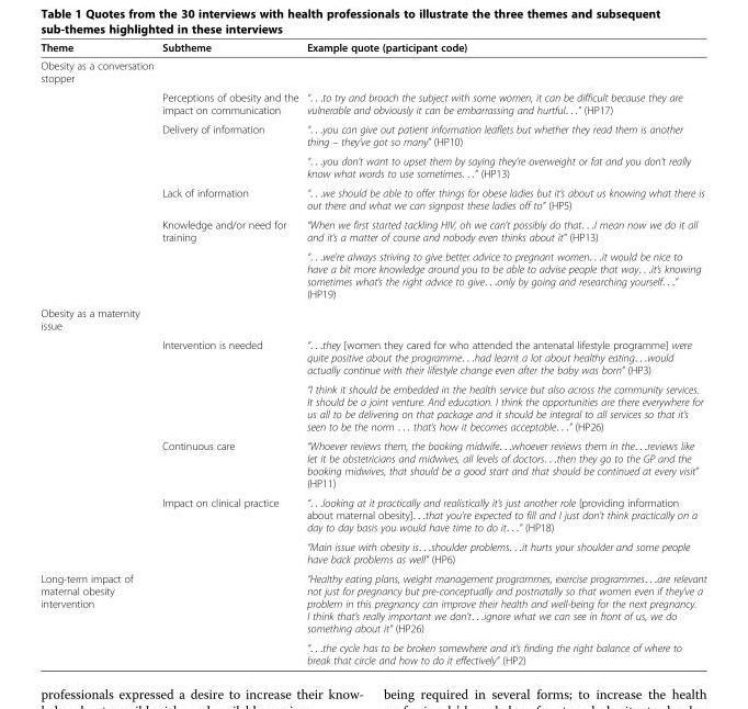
<table><thead><tr><td>Theme</td><td>Subtheme</td><td>Example quote (participant code)</td></tr></thead><tbody><tr><td colspan="3">Obesity as a conversation stopper</td></tr><tr><td></td><td>Perceptions of obesity and the impact on communication</td><td>“. . .to try and broach the subject with some women, it can be difficult because they are vulnerable and obviously it can be embarrassing and hurtful. . .” (HP17)</td></tr><tr><td></td><td>Delivery of information</td><td>“. . .you can give out patient information leaflets but whether they read them is another thing – they’ve got so many” (HP10)</td></tr><tr><td></td><td></td><td>“. . .you don’t want to upset them by saying they’re overweight or fat and you don’t really know what words to use sometimes. . .” (HP13)</td></tr><tr><td></td><td>Lack of information</td><td>“. . .we should be able to offer things for obese ladies but it’s about us knowing what there is out there and what we can signpost these ladies off to” (HP5)</td></tr><tr><td></td><td>Knowledge and/or need for training</td><td>“When we first started tackling HIV, oh we can’t possibly do that. . .I mean now we do it all and it’s a matter of course and nobody even thinks about it” (HP13)</td></tr><tr><td></td><td></td><td>“. . .we’re always striving to give better advice to pregnant women. . .it would be nice to have a bit more knowledge around you to be able to advise people that way. . .it’s knowing sometimes what’s the right advice to give. . .only by going and researching yourself. . .” (HP19)</td></tr><tr><td colspan="3">Obesity as a maternity issue</td></tr><tr><td></td><td>Intervention is needed</td><td>“. . .they [women they cared for who attended the antenatal lifestyle programme] were quite positive about the programme. . .had learnt a lot about healthy eating. . .would actually continue with their lifestyle change even after the baby was born” (HP3)</td></tr><tr><td></td><td></td><td>“I think it should be embedded in the health service but also across the community services. It should be a joint venture. And education. I think the opportunities are there everywhere for us all to be delivering on that package and it should be integral to all services so that it’s seen to be the norm . . . that’s how it becomes acceptable. . .” (HP26)</td></tr><tr><td></td><td>Continuous care</td><td>“Whoever reviews them, the booking midwife. . .whoever reviews them in the. . .reviews like let it be obstetricians and midwives, all levels of doctors. . .then they go to the GP and the booking midwives, that should be a good start and that should be continued at every visit” (HP11)</td></tr><tr><td></td><td>Impact on clinical practice</td><td>“. . .looking at it practically and realistically it’s just another role [providing information about maternal obesity]. . .that you’re expected to fill and I just don’t think practically on a day to day basis you would have time to do it. . .” (HP18)</td></tr><tr><td></td><td></td><td>“Main issue with obesity is. . .shoulder problems. . .it hurts your shoulder and some people have back problems as well” (HP6)</td></tr><tr><td rowspan="2">Long-term impact of maternal obesity intervention</td><td></td><td>“Healthy eating plans, weight management programmes, exercise programmes. . .are relevant not just for pregnancy but pre-conceptually and postnatally so that women even if they’ve a problem in this pregnancy can improve their health and well-being for the next pregnancy. I think that’s really important we don’t. . .ignore what we can see in front of us, we do something about it” (HP26)</td></tr><tr><td></td><td>“. . .the cycle has to be broken somewhere and it’s finding the right balance of where to break that circle and how to do it effectively” (HP2)</td></tr></tbody></table>